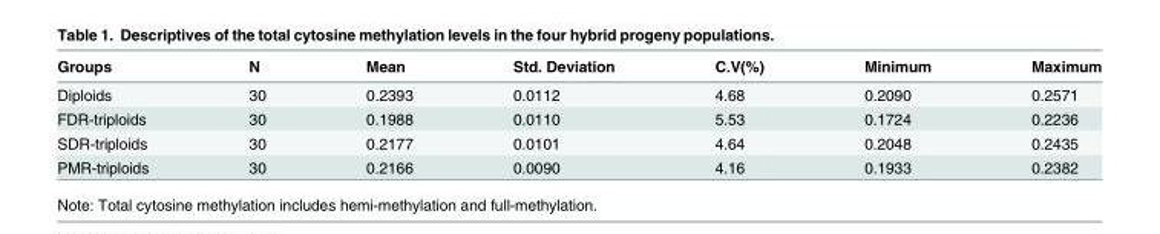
<table><thead><tr><td>Groups</td><td>N</td><td>Mean</td><td>Std. Deviation</td><td>C.V(%)</td><td>Minimum</td><td>Maximum</td></tr></thead><tbody><tr><td>Diploids</td><td>30</td><td>0.2393</td><td>0.0112</td><td>4.68</td><td>0.2090</td><td>0.2571</td></tr><tr><td>FDR-triploids</td><td>30</td><td>0.1988</td><td>0.0110</td><td>5.53</td><td>0.1724</td><td>0.2236</td></tr><tr><td>SDR-triploids</td><td>30</td><td>0.2177</td><td>0.0101</td><td>4.64</td><td>0.2048</td><td>0.2435</td></tr><tr><td>PMR-triploids</td><td>30</td><td>0.2166</td><td>0.0090</td><td>4.16</td><td>0.1933</td><td>0.2382</td></tr></tbody></table>